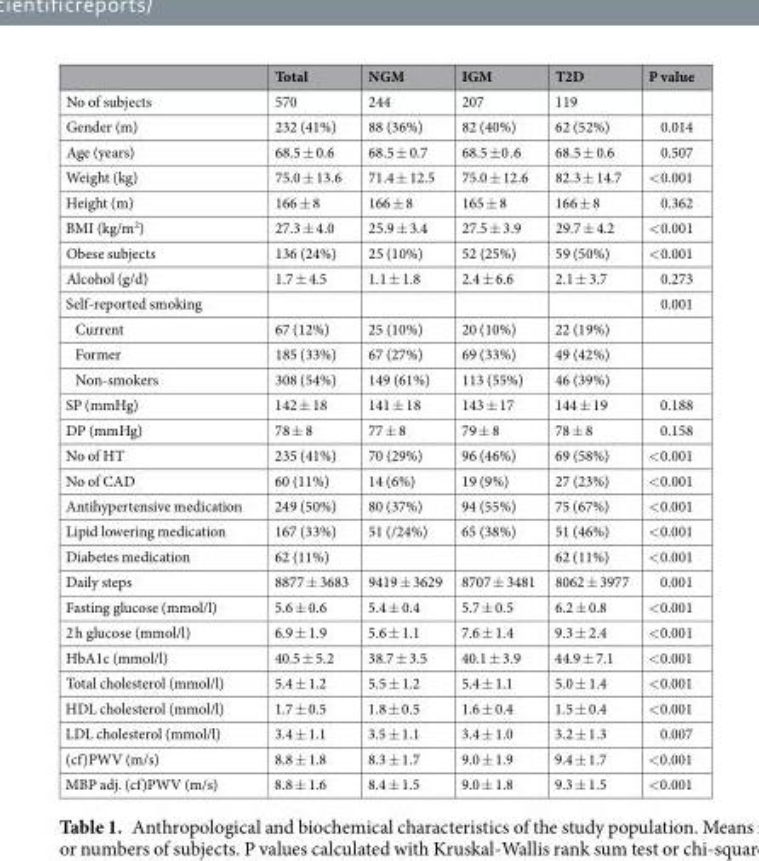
<table><thead><tr><td></td><td>Total</td><td>NGM</td><td>IGM</td><td>T2D</td><td>P value</td></tr></thead><tbody><tr><td>No of subjects</td><td>570</td><td>244</td><td>207</td><td>119</td><td></td></tr><tr><td>Gender (m)</td><td>232 (41%)</td><td>88 (36%)</td><td>82 (40%)</td><td>62 (52%)</td><td>0.014</td></tr><tr><td>Age (years)</td><td>68.5 ± 0.6</td><td>68.5 ± 0.7</td><td>68.5 ±0 .6</td><td>68.5 ± 0.6</td><td>0.507</td></tr><tr><td>Weight (kg)</td><td>75.0 ± 13.6</td><td>71.4 ± 12.5</td><td>75.0 ± 12.6</td><td>82.3 ± 14.7</td><td>&lt;0.001</td></tr><tr><td>Height (m)</td><td>166 ± 8</td><td>166 ± 8</td><td>165 ± 8</td><td>166 ± 8</td><td>0.362</td></tr><tr><td>BMI (kg/m<sup>2</sup>)</td><td>27.3 ± 4.0</td><td>25.9 ± 3.4</td><td>27.5 ± 3.9</td><td>29.7 ± 4.2</td><td>&lt;0.001</td></tr><tr><td>Obese subjects</td><td>136 (24%)</td><td>25 (10%)</td><td>52 (25%)</td><td>59 (50%)</td><td>&lt;0.001</td></tr><tr><td>Alcohol (g/d)</td><td>1.7 ± 4.5</td><td>1.1 ± 1.8</td><td>2.4 ± 6.6</td><td>2.1 ± 3.7</td><td>0.273</td></tr><tr><td>Self-reported smoking</td><td></td><td></td><td></td><td></td><td>0.001</td></tr><tr><td>Current</td><td>67 (12%)</td><td>25 (10%)</td><td>20 (10%)</td><td>22 (19%)</td><td></td></tr><tr><td>Former</td><td>185 (33%)</td><td>67 (27%)</td><td>69 (33%)</td><td>49 (42%)</td><td></td></tr><tr><td>Non-smokers</td><td>308 (54%)</td><td>149 (61%)</td><td>113 (55%)</td><td>46 (39%)</td><td></td></tr><tr><td>SP (mmHg)</td><td>142 ± 18</td><td>141 ± 18</td><td>143 ± 17</td><td>144 ± 19</td><td>0.188</td></tr><tr><td>DP (mmHg)</td><td>78 ± 8</td><td>77 ± 8</td><td>79 ± 8</td><td>78 ± 8</td><td>0.158</td></tr><tr><td>No of HT</td><td>235 (41%)</td><td>70 (29%)</td><td>96 (46%)</td><td>69 (58%)</td><td>&lt;0.001</td></tr><tr><td>No of CAD</td><td>60 (11%)</td><td>14 (6%)</td><td>19 (9%)</td><td>27 (23%)</td><td>&lt;0.001</td></tr><tr><td>Antihypertensive medication</td><td>249 (50%)</td><td>80 (37%)</td><td>94 (55%)</td><td>75 (67%)</td><td>&lt;0.001</td></tr><tr><td>Lipid lowering medication</td><td>167 (33%)</td><td>51 (/24%)</td><td>65 (38%)</td><td>51 (46%)</td><td>&lt;0.001</td></tr><tr><td>Diabetes medication</td><td>62 (11%)</td><td></td><td></td><td>62 (11%)</td><td>&lt;0.001</td></tr><tr><td>Daily steps</td><td>8877 ± 3683</td><td>9419 ± 3629</td><td>8707 ± 3481</td><td>8062 ± 3977</td><td>0.001</td></tr><tr><td>Fasting glucose (mmol/l)</td><td>5.6 ± 0.6</td><td>5.4 ± 0.4</td><td>5.7 ± 0.5</td><td>6.2 ± 0.8</td><td>&lt;0.001</td></tr><tr><td>2 h glucose (mmol/l)</td><td>6.9 ± 1.9</td><td>5.6 ± 1.1</td><td>7.6 ± 1.4</td><td>9.3 ± 2.4</td><td>&lt;0.001</td></tr><tr><td>HbA1c (mmol/l)</td><td>40.5 ± 5.2</td><td>38.7 ± 3.5</td><td>40.1 ± 3.9</td><td>44.9 ± 7.1</td><td>&lt;0.001</td></tr><tr><td>Total cholesterol (mmol/l)</td><td>5.4 ± 1.2</td><td>5.5 ± 1.2</td><td>5.4 ± 1.1</td><td>5.0 ± 1.4</td><td>&lt;0.001</td></tr><tr><td>HDL cholesterol (mmol/l)</td><td>1.7 ± 0.5</td><td>1.8 ± 0.5</td><td>1.6 ± 0.4</td><td>1.5 ± 0.4</td><td>&lt;0.001</td></tr><tr><td>LDL cholesterol (mmol/l)</td><td>3.4 ± 1.1</td><td>3.5 ± 1.1</td><td>3.4 ± 1.0</td><td>3.2 ± 1.3</td><td>0.007</td></tr><tr><td>(cf)PWV (m/s)</td><td>8.8 ± 1.8</td><td>8.3 ± 1.7</td><td>9.0 ± 1.9</td><td>9.4 ± 1.7</td><td>&lt;0.001</td></tr><tr><td>MBP adj. (cf)PWV (m/s)</td><td>8.8 ± 1.6</td><td>8.4 ± 1.5</td><td>9.0 ± 1.8</td><td>9.3 ± 1.5</td><td>&lt;0.001</td></tr></tbody></table>